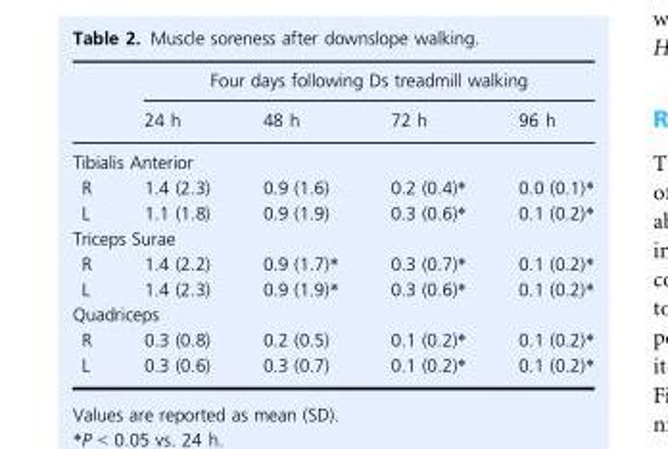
<table><thead><tr><td rowspan="2"></td><td colspan="4">Four days following Ds treadmill walking</td></tr><tr><td>24 h</td><td>48 h</td><td>72 h</td><td>96 h</td></tr></thead><tbody><tr><td colspan="5">Tibialis Anterior</td></tr><tr><td>R</td><td>1.4 (2.3)</td><td>0.9 (1.6)</td><td>0.2 (0.4)*</td><td>0.0 (0.1)*</td></tr><tr><td>L</td><td>1.1 (1.8)</td><td>0.9 (1.9)</td><td>0.3 (0.6)*</td><td>0.1 (0.2)*</td></tr><tr><td colspan="5">Triceps Surae</td></tr><tr><td>R</td><td>1.4 (2.2)</td><td>0.9 (1.7)*</td><td>0.3 (0.7)*</td><td>0.1 (0.2)*</td></tr><tr><td>L</td><td>1.4 (2.3)</td><td>0.9 (1.9)*</td><td>0.3 (0.6)*</td><td>0.1 (0.2)*</td></tr><tr><td colspan="5">Quadriceps</td></tr><tr><td>R</td><td>0.3 (0.8)</td><td>0.2 (0.5)</td><td>0.1 (0.2)*</td><td>0.1 (0.2)*</td></tr><tr><td>L</td><td>0.3 (0.6)</td><td>0.3 (0.7)</td><td>0.1 (0.2)*</td><td>0.1 (0.2)*</td></tr></tbody></table>